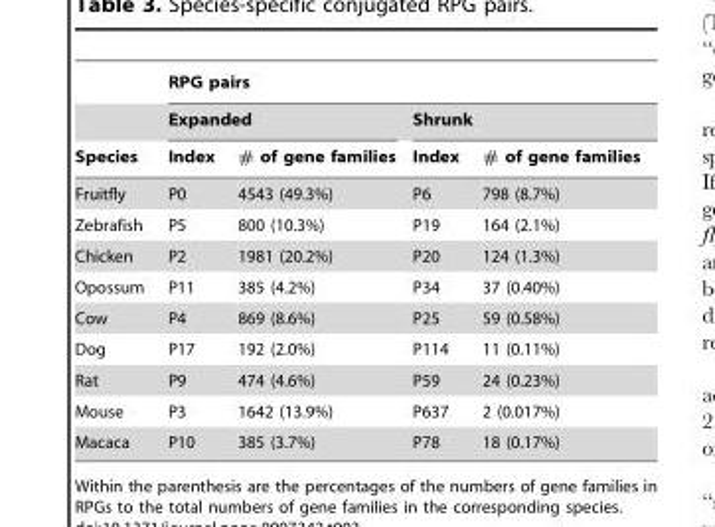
<table><thead><tr><td rowspan="3">Species</td><td colspan="4">RPG pairs</td></tr><tr><td colspan="2">Expanded</td><td colspan="2">Shrunk</td></tr><tr><td>Index</td><td># of gene families</td><td>Index</td><td># of gene families</td></tr></thead><tbody><tr><td>Fruitfly</td><td>P0</td><td>4543 (49.3%)</td><td>P6</td><td>798 (8.7%)</td></tr><tr><td>Zebrafish</td><td>P5</td><td>800 (10.3%)</td><td>P19</td><td>164 (2.1%)</td></tr><tr><td>Chicken</td><td>P2</td><td>1981 (20.2%)</td><td>P20</td><td>124 (1.3%)</td></tr><tr><td>Opossum</td><td>P11</td><td>385 (4.2%)</td><td>P34</td><td>37 (0.40%)</td></tr><tr><td>Cow</td><td>P4</td><td>869 (8.6%)</td><td>P25</td><td>59 (0.58%)</td></tr><tr><td>Dog</td><td>P17</td><td>192 (2.0%)</td><td>P114</td><td>11 (0.11%)</td></tr><tr><td>Rat</td><td>P9</td><td>474 (4.6%)</td><td>P59</td><td>24 (0.23%)</td></tr><tr><td>Mouse</td><td>P3</td><td>1642 (13.9%)</td><td>P637</td><td>2 (0.017%)</td></tr><tr><td>Macaca</td><td>P10</td><td>385 (3.7%)</td><td>P78</td><td>18 (0.17%)</td></tr></tbody></table>